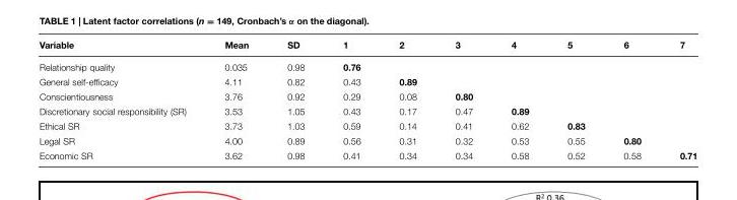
<table><thead><tr><td>Variable</td><td>Mean</td><td>SD</td><td>1</td><td>2</td><td>3</td><td>4</td><td>5</td><td>6</td><td>7</td></tr></thead><tbody><tr><td>Relationship quality</td><td>0.035</td><td>0.98</td><td>0.76</td><td></td><td></td><td></td><td></td><td></td><td></td></tr><tr><td>General self-efficacy</td><td>4.11</td><td>0.82</td><td>0.43</td><td>0.89</td><td></td><td></td><td></td><td></td><td></td></tr><tr><td>Conscientiousness</td><td>3.76</td><td>0.92</td><td>0.29</td><td>0.08</td><td>0.80</td><td></td><td></td><td></td><td></td></tr><tr><td>Discretionary social responsibility (SR)</td><td>3.53</td><td>1.05</td><td>0.43</td><td>0.17</td><td>0.47</td><td>0.89</td><td></td><td></td><td></td></tr><tr><td>Ethical SR</td><td>3.73</td><td>1.03</td><td>0.59</td><td>0.14</td><td>0.41</td><td>0.62</td><td>0.83</td><td></td><td></td></tr><tr><td>Legal SR</td><td>4.00</td><td>0.89</td><td>0.56</td><td>0.31</td><td>0.32</td><td>0.53</td><td>0.55</td><td>0.80</td><td></td></tr><tr><td>Economic SR</td><td>3.62</td><td>0.98</td><td>0.41</td><td>0.34</td><td>0.34</td><td>0.58</td><td>0.52</td><td>0.58</td><td>0.71</td></tr></tbody></table>